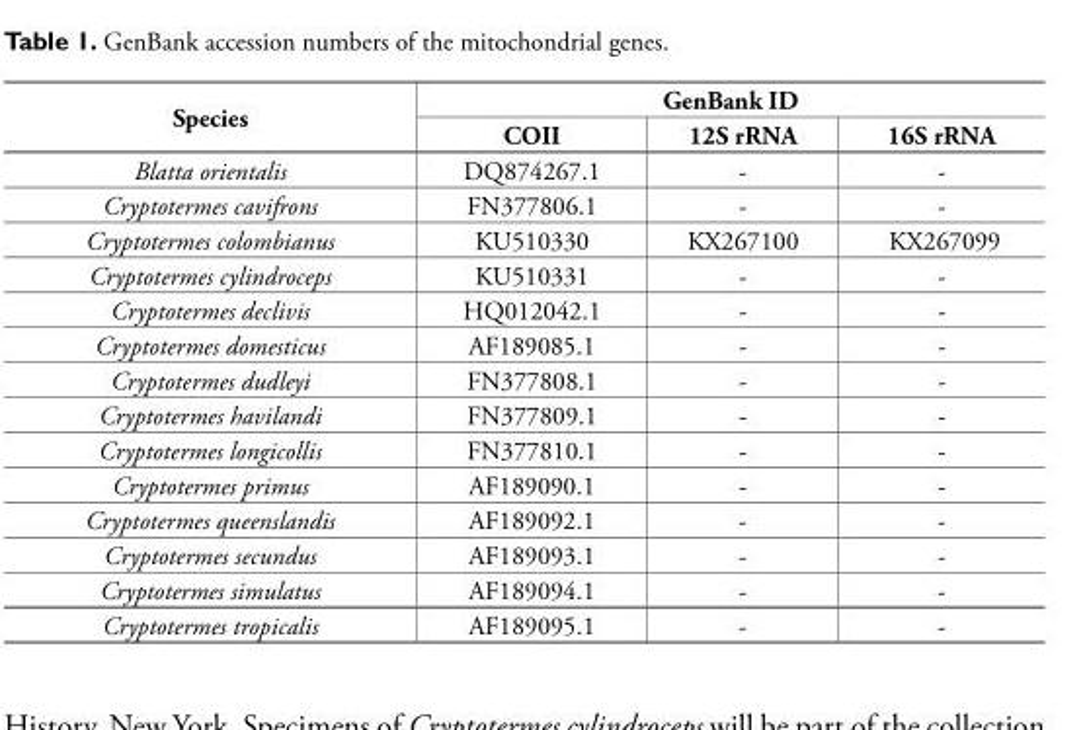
<table><thead><tr><td rowspan="2">Species</td><td colspan="3">GenBank ID</td></tr><tr><td>COII</td><td>12S rRNA</td><td>16S rRNA</td></tr></thead><tbody><tr><td>Blatta orientalis</td><td>DQ874267.1</td><td>-</td><td>-</td></tr><tr><td>Cryptotermes cavifrons</td><td>FN377806.1</td><td>-</td><td>-</td></tr><tr><td>Cryptotermes colombianus</td><td>KU510330</td><td>KX267100</td><td>KX267099</td></tr><tr><td>Cryptotermes cylindroceps</td><td>KU510331</td><td>-</td><td>-</td></tr><tr><td>Cryptotermes declivis</td><td>HQ012042.1</td><td>-</td><td>-</td></tr><tr><td>Cryptotermes domesticus</td><td>AF189085.1</td><td>-</td><td>-</td></tr><tr><td>Cryptotermes dudleyi</td><td>FN377808.1</td><td>-</td><td>-</td></tr><tr><td>Cryptotermes havilandi</td><td>FN377809.1</td><td>-</td><td>-</td></tr><tr><td>Cryptotermes longicollis</td><td>FN377810.1</td><td>-</td><td>-</td></tr><tr><td>Cryptotermes primus</td><td>AF189090.1</td><td>-</td><td>-</td></tr><tr><td>Cryptotermes queenslandis</td><td>AF189092.1</td><td>-</td><td>-</td></tr><tr><td>Cryptotermes secundus</td><td>AF189093.1</td><td>-</td><td>-</td></tr><tr><td>Cryptotermes simulatus</td><td>AF189094.1</td><td>-</td><td>-</td></tr><tr><td>Cryptotermes tropicalis</td><td>AF189095.1</td><td>-</td><td>-</td></tr></tbody></table>